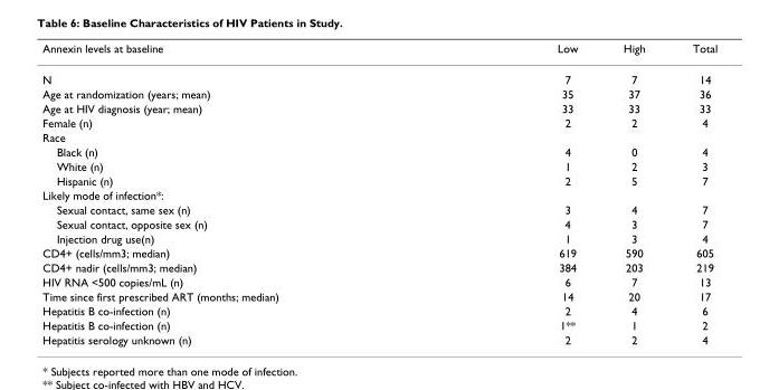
<table><thead><tr><td>Annexin levels at baseline</td><td>Low</td><td>High</td><td>Total</td></tr></thead><tbody><tr><td>N</td><td>7</td><td>7</td><td>14</td></tr><tr><td>Age at randomization (years; mean)</td><td>35</td><td>37</td><td>36</td></tr><tr><td>Age at HIV diagnosis (year; mean)</td><td>33</td><td>33</td><td>33</td></tr><tr><td>Female (n)</td><td>2</td><td>2</td><td>4</td></tr><tr><td colspan="4">Race</td></tr><tr><td>Black (n)</td><td>4</td><td>0</td><td>4</td></tr><tr><td>White (n)</td><td>1</td><td>2</td><td>3</td></tr><tr><td>Hispanic (n)</td><td>2</td><td>5</td><td>7</td></tr><tr><td colspan="4">Likely mode of infection*:</td></tr><tr><td>Sexual contact, same sex (n)</td><td>3</td><td>4</td><td>7</td></tr><tr><td>Sexual contact, opposite sex (n)</td><td>4</td><td>3</td><td>7</td></tr><tr><td>Injection drug use(n)</td><td>1</td><td>3</td><td>4</td></tr><tr><td>CD4+ (cells/mm3; median)</td><td>619</td><td>590</td><td>605</td></tr><tr><td>CD4+ nadir (cells/mm3; median)</td><td>384</td><td>203</td><td>219</td></tr><tr><td>HIV RNA &lt;500 copies/mL (n)</td><td>6</td><td>7</td><td>13</td></tr><tr><td>Time since first prescribed ART (months; median)</td><td>14</td><td>20</td><td>17</td></tr><tr><td>Hepatitis B co-infection (n)</td><td>2</td><td>4</td><td>6</td></tr><tr><td>Hepatitis B co-infection (n)</td><td>1**</td><td>1</td><td>2</td></tr><tr><td>Hepatitis serology unknown (n)</td><td>2</td><td>2</td><td>4</td></tr></tbody></table>